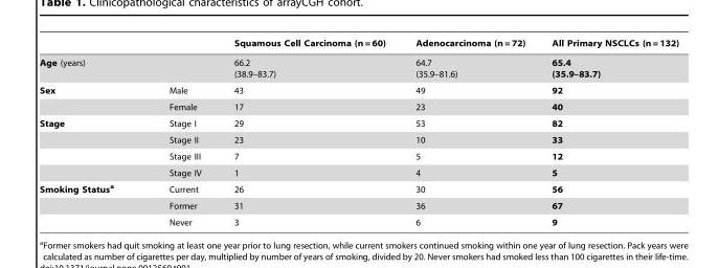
<table><thead><tr><td></td><td></td><td>Squamous Cell Carcinoma (n = 60)</td><td>Adenocarcinoma (n = 72)</td><td>All Primary NSCLCs (n = 132)</td></tr></thead><tbody><tr><td colspan="2">Age (years)</td><td>66.2 (38.9–83.7)</td><td>64.7 (35.9–81.6)</td><td>65.4 (35.9–83.7)</td></tr><tr><td rowspan="2">Sex</td><td>Male</td><td>43</td><td>49</td><td>92</td></tr><tr><td>Female</td><td>17</td><td>23</td><td>40</td></tr><tr><td rowspan="4">Stage</td><td>Stage I</td><td>29</td><td>53</td><td>82</td></tr><tr><td>Stage II</td><td>23</td><td>10</td><td>33</td></tr><tr><td>Stage III</td><td>7</td><td>5</td><td>12</td></tr><tr><td>Stage IV</td><td>1</td><td>4</td><td>5</td></tr><tr><td rowspan="3">Smoking Statusa</td><td>Current</td><td>26</td><td>30</td><td>56</td></tr><tr><td>Former</td><td>31</td><td>36</td><td>67</td></tr><tr><td>Never</td><td>3</td><td>6</td><td>9</td></tr></tbody></table>